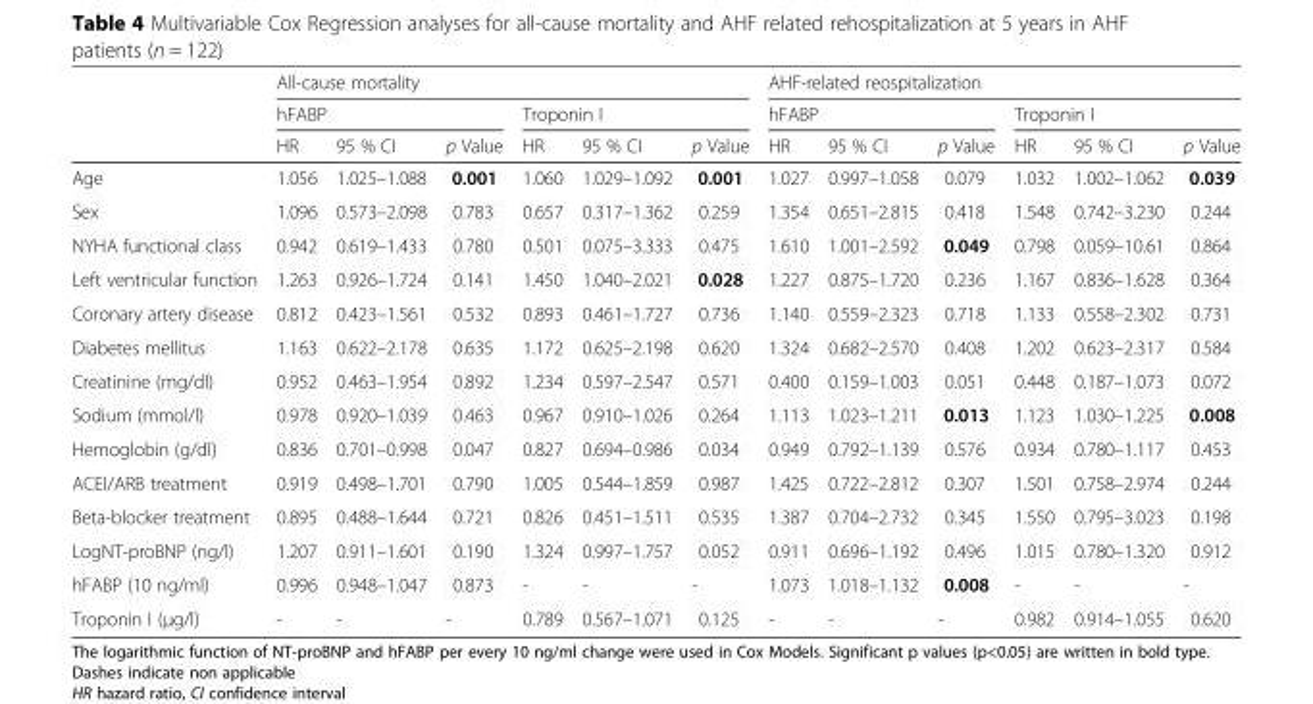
<table><thead><tr><td rowspan="3"></td><td colspan="6">All-cause mortality</td><td colspan="6">AHF-related reospitalization</td></tr><tr><td colspan="3">hFABP</td><td colspan="3">Troponin I</td><td colspan="3">hFABP</td><td colspan="3">Troponin I</td></tr><tr><td>HR</td><td>95 % CI</td><td>p Value</td><td>HR</td><td>95 % CI</td><td>p Value</td><td>HR</td><td>95 % CI</td><td>p Value</td><td>HR</td><td>95 % CI</td><td>p Value</td></tr></thead><tbody><tr><td>Age</td><td>1.056</td><td>1.025–1.088</td><td>0.001</td><td>1.060</td><td>1.029–1.092</td><td>0.001</td><td>1.027</td><td>0.997–1.058</td><td>0.079</td><td>1.032</td><td>1.002–1.062</td><td>0.039</td></tr><tr><td>Sex</td><td>1.096</td><td>0.573–2.098</td><td>0.783</td><td>0.657</td><td>0.317–1.362</td><td>0.259</td><td>1.354</td><td>0.651–2.815</td><td>0.418</td><td>1.548</td><td>0.742–3.230</td><td>0.244</td></tr><tr><td>NYHA functional class</td><td>0.942</td><td>0.619–1.433</td><td>0.780</td><td>0.501</td><td>0.075–3.333</td><td>0.475</td><td>1.610</td><td>1.001–2.592</td><td>0.049</td><td>0.798</td><td>0.059–10.61</td><td>0.864</td></tr><tr><td>Left ventricular function</td><td>1.263</td><td>0.926–1.724</td><td>0.141</td><td>1.450</td><td>1.040–2.021</td><td>0.028</td><td>1.227</td><td>0.875–1.720</td><td>0.236</td><td>1.167</td><td>0.836–1.628</td><td>0.364</td></tr><tr><td>Coronary artery disease</td><td>0.812</td><td>0.423–1.561</td><td>0.532</td><td>0.893</td><td>0.461–1.727</td><td>0.736</td><td>1.140</td><td>0.559–2.323</td><td>0.718</td><td>1.133</td><td>0.558–2.302</td><td>0.731</td></tr><tr><td>Diabetes mellitus</td><td>1.163</td><td>0.622–2.178</td><td>0.635</td><td>1.172</td><td>0.625–2.198</td><td>0.620</td><td>1.324</td><td>0.682–2.570</td><td>0.408</td><td>1.202</td><td>0.623–2.317</td><td>0.584</td></tr><tr><td>Creatinine (mg/dl)</td><td>0.952</td><td>0.463–1.954</td><td>0.892</td><td>1.234</td><td>0.597–2.547</td><td>0.571</td><td>0.400</td><td>0.159–1.003</td><td>0.051</td><td>0.448</td><td>0.187–1.073</td><td>0.072</td></tr><tr><td>Sodium (mmol/l)</td><td>0.978</td><td>0.920–1.039</td><td>0.463</td><td>0.967</td><td>0.910–1.026</td><td>0.264</td><td>1.113</td><td>1.023–1.211</td><td>0.013</td><td>1.123</td><td>1.030–1.225</td><td>0.008</td></tr><tr><td>Hemoglobin (g/dl)</td><td>0.836</td><td>0.701–0.998</td><td>0.047</td><td>0.827</td><td>0.694–0.986</td><td>0.034</td><td>0.949</td><td>0.792–1.139</td><td>0.576</td><td>0.934</td><td>0.780–1.117</td><td>0.453</td></tr><tr><td>ACEI/ARB treatment</td><td>0.919</td><td>0.498–1.701</td><td>0.790</td><td>1.005</td><td>0.544–1.859</td><td>0.987</td><td>1.425</td><td>0.722–2.812</td><td>0.307</td><td>1.501</td><td>0.758–2.974</td><td>0.244</td></tr><tr><td>Beta-blocker treatment</td><td>0.895</td><td>0.488–1.644</td><td>0.721</td><td>0.826</td><td>0.451–1.511</td><td>0.535</td><td>1.387</td><td>0.704–2.732</td><td>0.345</td><td>1.550</td><td>0.795–3.023</td><td>0.198</td></tr><tr><td>LogNT-proBNP (ng/l)</td><td>1.207</td><td>0.911–1.601</td><td>0.190</td><td>1.324</td><td>0.997–1.757</td><td>0.052</td><td>0.911</td><td>0.696–1.192</td><td>0.496</td><td>1.015</td><td>0.780–1.320</td><td>0.912</td></tr><tr><td>hFABP (10 ng/ml)</td><td>0.996</td><td>0.948–1.047</td><td>0.873</td><td>-</td><td>-</td><td>-</td><td>1.073</td><td>1.018–1.132</td><td>0.008</td><td>-</td><td>-</td><td>-</td></tr><tr><td>Troponin I (μg/l)</td><td>-</td><td>-</td><td>-</td><td>0.789</td><td>0.567–1.071</td><td>0.125</td><td>-</td><td>-</td><td>-</td><td>0.982</td><td>0.914–1.055</td><td>0.620</td></tr></tbody></table>